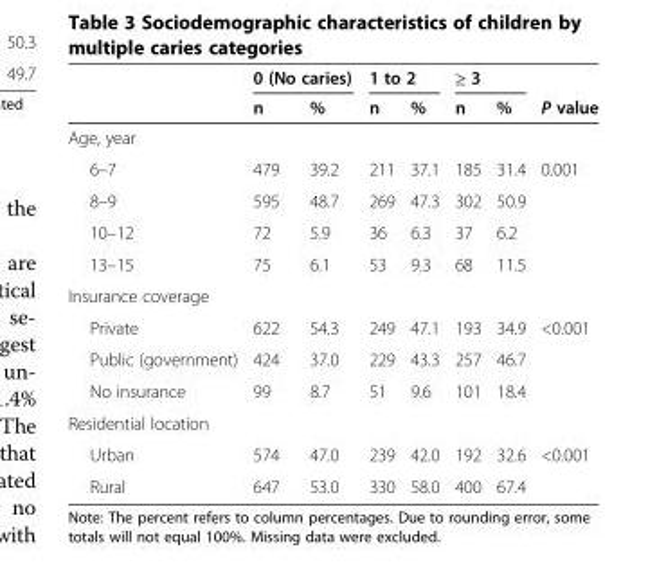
<table><thead><tr><td rowspan="2"></td><td colspan="2">0 (No caries)</td><td colspan="2">1 to 2</td><td colspan="2">≥ 3</td><td rowspan="2">P value</td></tr><tr><td>n</td><td>%</td><td>n</td><td>%</td><td>n</td><td>%</td></tr></thead><tbody><tr><td colspan="8">Age, year</td></tr><tr><td>6–7</td><td>479</td><td>39.2</td><td>211</td><td>37.1</td><td>185</td><td>31.4</td><td>0.001</td></tr><tr><td>8–9</td><td>595</td><td>48.7</td><td>269</td><td>47.3</td><td>302</td><td>50.9</td><td></td></tr><tr><td>10–12</td><td>72</td><td>5.9</td><td>36</td><td>6.3</td><td>37</td><td>6.2</td><td></td></tr><tr><td>13–15</td><td>75</td><td>6.1</td><td>53</td><td>9.3</td><td>68</td><td>11.5</td><td></td></tr><tr><td colspan="8">Insurance coverage</td></tr><tr><td>Private</td><td>622</td><td>54.3</td><td>249</td><td>47.1</td><td>193</td><td>34.9</td><td>&lt;0.001</td></tr><tr><td>Public (government)</td><td>424</td><td>37.0</td><td>229</td><td>43.3</td><td>257</td><td>46.7</td><td></td></tr><tr><td>No insurance</td><td>99</td><td>8.7</td><td>51</td><td>9.6</td><td>101</td><td>18.4</td><td></td></tr><tr><td colspan="8">Residential location</td></tr><tr><td>Urban</td><td>574</td><td>47.0</td><td>239</td><td>42.0</td><td>192</td><td>32.6</td><td>&lt;0.001</td></tr><tr><td>Rural</td><td>647</td><td>53.0</td><td>330</td><td>58.0</td><td>400</td><td>67.4</td><td></td></tr></tbody></table>